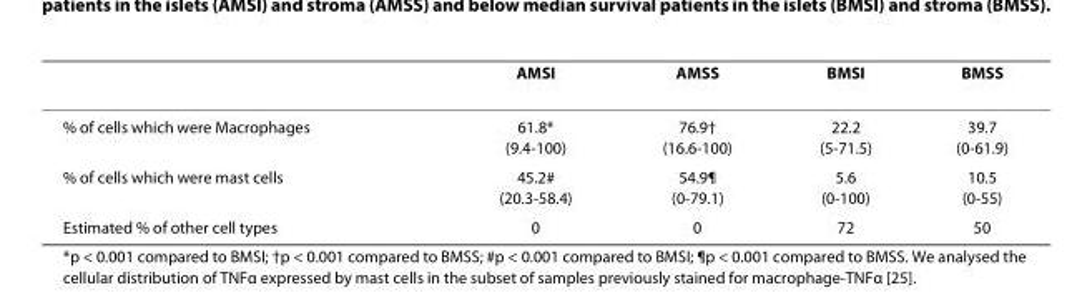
<table><thead><tr><td></td><td>AMSI</td><td>AMSS</td><td>BMSI</td><td>BMSS</td></tr></thead><tbody><tr><td>% of cells which were Macrophages</td><td>61.8* (9.4-100)</td><td>76.9† (16.6-100)</td><td>22.2 (5-71.5)</td><td>39.7 (0-61.9)</td></tr><tr><td>% of cells which were mast cells</td><td>45.2# (20.3-58.4)</td><td>54.9¶ (0-79.1)</td><td>5.6 (0-100)</td><td>10.5 (0-55)</td></tr><tr><td>Estimated % of other cell types</td><td>0</td><td>0</td><td>72</td><td>50</td></tr></tbody></table>